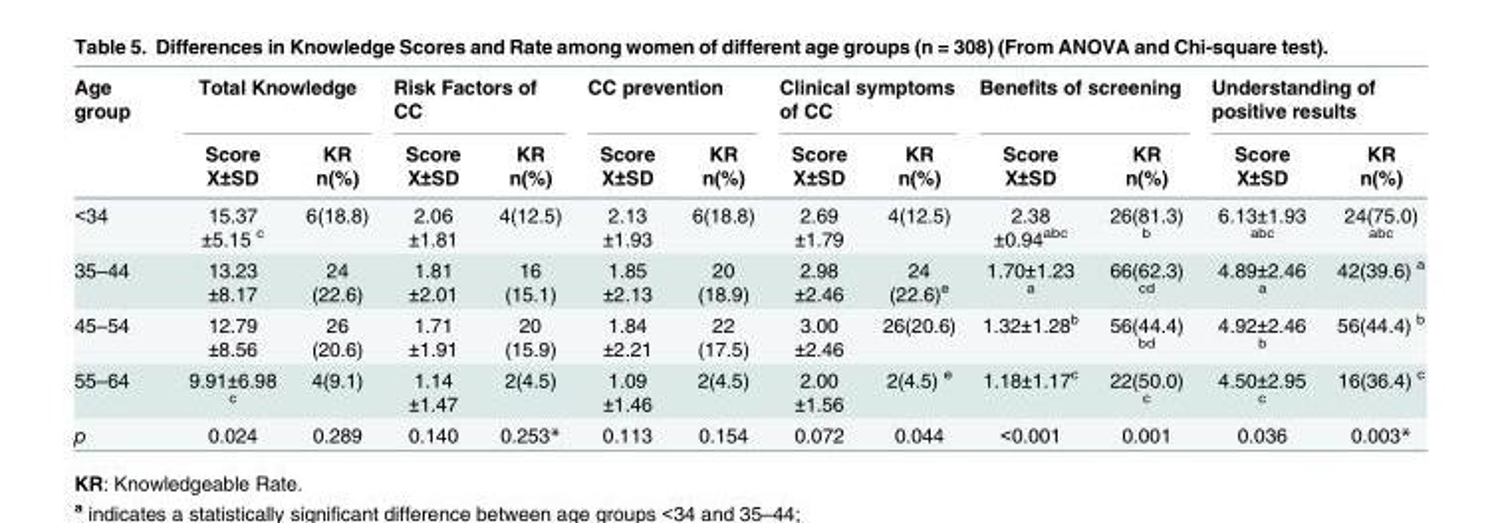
<table><thead><tr><td rowspan="3">Age group</td><td colspan="2">Total Knowledge</td><td colspan="2">Risk Factors of CC</td><td colspan="2">CC prevention</td><td colspan="2">Clinical symptoms of CC</td><td colspan="2">Benefits of screening</td><td colspan="2">Understanding of positive results</td></tr><tr><td rowspan="2">Score X±SD</td><td rowspan="2">KR n(%)</td><td rowspan="2">Score X±SD</td><td rowspan="2">KR n(%)</td><td rowspan="2">Score X±SD</td><td rowspan="2">KR n(%)</td><td rowspan="2">Score X±SD</td><td rowspan="2">KR n(%)</td><td rowspan="2">Score X±SD</td><td rowspan="2">KR n(%)</td><td rowspan="2">Score X±SD</td><td rowspan="2">KR n(%)</td></tr><tr></tr></thead><tbody><tr><td>&lt;34</td><td>15.37 ±5.15 <sup>c</sup></td><td>6(18.8)</td><td>2.06 ±1.81</td><td>4(12.5)</td><td>2.13 ±1.93</td><td>6(18.8)</td><td>2.69 ±1.79</td><td>4(12.5)</td><td>2.38 ±0.94<sup>abc</sup></td><td>26(81.3) <sup>b</sup></td><td>6.13±1.93 <sup>abc</sup></td><td>24(75.0) <sup>abc</sup></td></tr><tr><td>35–44</td><td>13.23 ±8.17</td><td>24 (22.6)</td><td>1.81 ±2.01</td><td>16 (15.1)</td><td>1.85 ±2.13</td><td>20 (18.9)</td><td>2.98 ±2.46</td><td>24 (22.6)<sup>e</sup></td><td>1.70±1.23 <sup>a</sup></td><td>66(62.3) <sup>cd</sup></td><td>4.89±2.46 <sup>a</sup></td><td>42(39.6) <sup>a</sup></td></tr><tr><td>45–54</td><td>12.79 ±8.56</td><td>26 (20.6)</td><td>1.71 ±1.91</td><td>20 (15.9)</td><td>1.84 ±2.21</td><td>22 (17.5)</td><td>3.00 ±2.46</td><td>26(20.6)</td><td>1.32±1.28<sup>b</sup></td><td>56(44.4) <sup>bd</sup></td><td>4.92±2.46 <sup>b</sup></td><td>56(44.4) <sup>b</sup></td></tr><tr><td>55–64</td><td>9.91±6.98 <sup>c</sup></td><td>4(9.1)</td><td>1.14 ±1.47</td><td>2(4.5)</td><td>1.09 ±1.46</td><td>2(4.5)</td><td>2.00 ±1.56</td><td>2(4.5) <sup>e</sup></td><td>1.18±1.17<sup>c</sup></td><td>22(50.0) <sup>c</sup></td><td>4.50±2.95 <sup>c</sup></td><td>16(36.4) <sup>c</sup></td></tr><tr><td>p</td><td>0.024</td><td>0.289</td><td>0.140</td><td>0.253*</td><td>0.113</td><td>0.154</td><td>0.072</td><td>0.044</td><td>&lt;0.001</td><td>0.001</td><td>0.036</td><td>0.003*</td></tr></tbody></table>